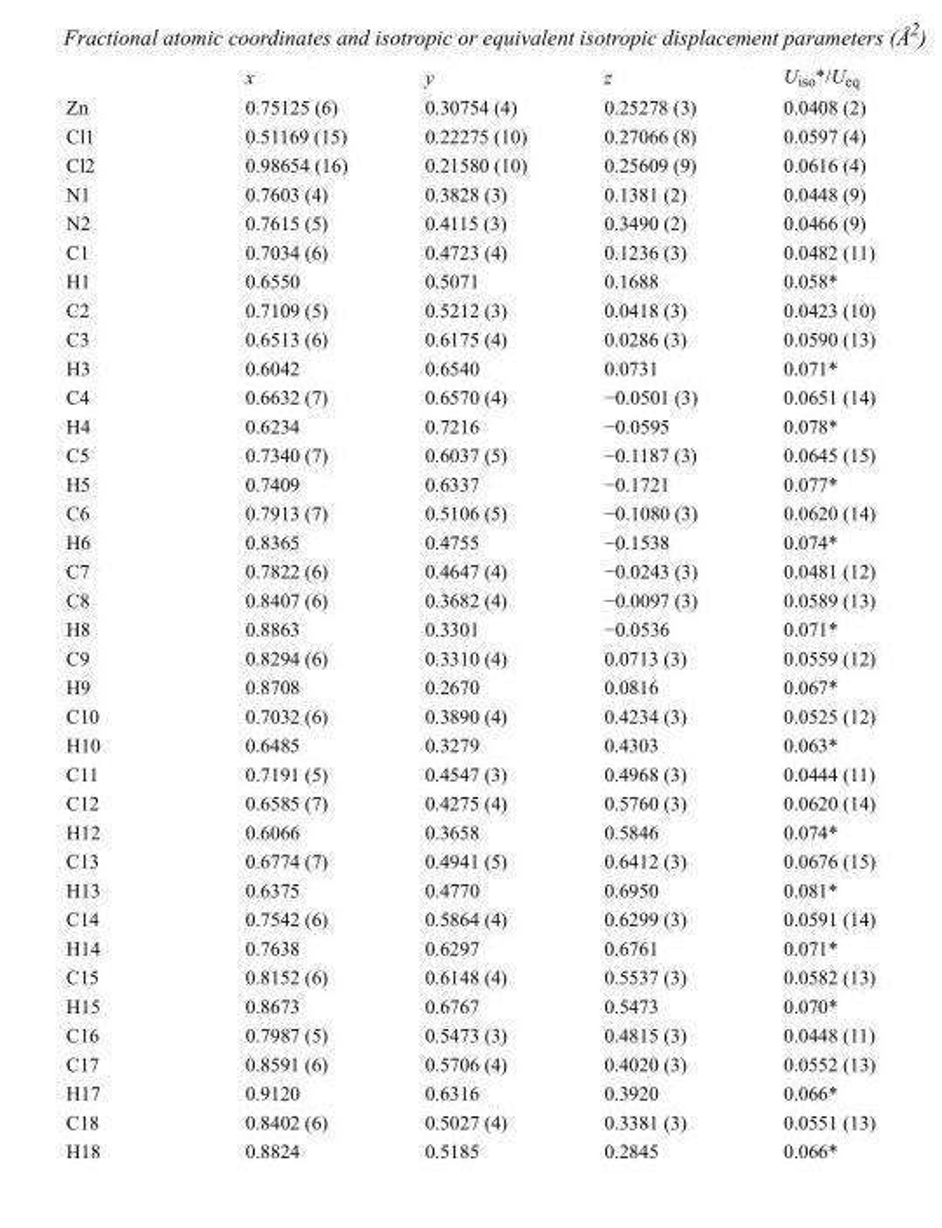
<table><thead><tr><td></td><td>x</td><td>y</td><td>z</td><td>U<sub>iso</sub>*/U<sub>eq</sub></td></tr></thead><tbody><tr><td>Zn</td><td>0.75125 (6)</td><td>0.30754 (4)</td><td>0.25278 (3)</td><td>0.0408 (2)</td></tr><tr><td>Cl1</td><td>0.51169 (15)</td><td>0.22275 (10)</td><td>0.27066 (8)</td><td>0.0597 (4)</td></tr><tr><td>Cl2</td><td>0.98654 (16)</td><td>0.21580 (10)</td><td>0.25609 (9)</td><td>0.0616 (4)</td></tr><tr><td>N1</td><td>0.7603 (4)</td><td>0.3828 (3)</td><td>0.1381 (2)</td><td>0.0448 (9)</td></tr><tr><td>N2</td><td>0.7615 (5)</td><td>0.4115 (3)</td><td>0.3490 (2)</td><td>0.0466 (9)</td></tr><tr><td>C1</td><td>0.7034 (6)</td><td>0.4723 (4)</td><td>0.1236 (3)</td><td>0.0482 (11)</td></tr><tr><td>H1</td><td>0.6550</td><td>0.5071</td><td>0.1688</td><td>0.058*</td></tr><tr><td>C2</td><td>0.7109 (5)</td><td>0.5212 (3)</td><td>0.0418 (3)</td><td>0.0423 (10)</td></tr><tr><td>C3</td><td>0.6513 (6)</td><td>0.6175 (4)</td><td>0.0286 (3)</td><td>0.0590 (13)</td></tr><tr><td>H3</td><td>0.6042</td><td>0.6540</td><td>0.0731</td><td>0.071*</td></tr><tr><td>C4</td><td>0.6632 (7)</td><td>0.6570 (4)</td><td>−0.0501 (3)</td><td>0.0651 (14)</td></tr><tr><td>H4</td><td>0.6234</td><td>0.7216</td><td>−0.0595</td><td>0.078*</td></tr><tr><td>C5</td><td>0.7340 (7)</td><td>0.6037 (5)</td><td>−0.1187 (3)</td><td>0.0645 (15)</td></tr><tr><td>H5</td><td>0.7409</td><td>0.6337</td><td>−0.1721</td><td>0.077*</td></tr><tr><td>C6</td><td>0.7913 (7)</td><td>0.5106 (5)</td><td>−0.1080 (3)</td><td>0.0620 (14)</td></tr><tr><td>H6</td><td>0.8365</td><td>0.4755</td><td>−0.1538</td><td>0.074*</td></tr><tr><td>C7</td><td>0.7822 (6)</td><td>0.4647 (4)</td><td>−0.0243 (3)</td><td>0.0481 (12)</td></tr><tr><td>C8</td><td>0.8407 (6)</td><td>0.3682 (4)</td><td>−0.0097 (3)</td><td>0.0589 (13)</td></tr><tr><td>H8</td><td>0.8863</td><td>0.3301</td><td>−0.0536</td><td>0.071*</td></tr><tr><td>C9</td><td>0.8294 (6)</td><td>0.3310 (4)</td><td>0.0713 (3)</td><td>0.0559 (12)</td></tr><tr><td>H9</td><td>0.8708</td><td>0.2670</td><td>0.0816</td><td>0.067*</td></tr><tr><td>C10</td><td>0.7032 (6)</td><td>0.3890 (4)</td><td>0.4234 (3)</td><td>0.0525 (12)</td></tr><tr><td>H10</td><td>0.6485</td><td>0.3279</td><td>0.4303</td><td>0.063*</td></tr><tr><td>C11</td><td>0.7191 (5)</td><td>0.4547 (3)</td><td>0.4968 (3)</td><td>0.0444 (11)</td></tr><tr><td>C12</td><td>0.6585 (7)</td><td>0.4275 (4)</td><td>0.5760 (3)</td><td>0.0620 (14)</td></tr><tr><td>H12</td><td>0.6066</td><td>0.3658</td><td>0.5846</td><td>0.074*</td></tr><tr><td>C13</td><td>0.6774 (7)</td><td>0.4941 (5)</td><td>0.6412 (3)</td><td>0.0676 (15)</td></tr><tr><td>H13</td><td>0.6375</td><td>0.4770</td><td>0.6950</td><td>0.081*</td></tr><tr><td>C14</td><td>0.7542 (6)</td><td>0.5864 (4)</td><td>0.6299 (3)</td><td>0.0591 (14)</td></tr><tr><td>H14</td><td>0.7638</td><td>0.6297</td><td>0.6761</td><td>0.071*</td></tr><tr><td>C15</td><td>0.8152 (6)</td><td>0.6148 (4)</td><td>0.5537 (3)</td><td>0.0582 (13)</td></tr><tr><td>H15</td><td>0.8673</td><td>0.6767</td><td>0.5473</td><td>0.070*</td></tr><tr><td>C16</td><td>0.7987 (5)</td><td>0.5473 (3)</td><td>0.4815 (3)</td><td>0.0448 (11)</td></tr><tr><td>C17</td><td>0.8591 (6)</td><td>0.5706 (4)</td><td>0.4020 (3)</td><td>0.0552 (13)</td></tr><tr><td>H17</td><td>0.9120</td><td>0.6316</td><td>0.3920</td><td>0.066*</td></tr><tr><td>C18</td><td>0.8402 (6)</td><td>0.5027 (4)</td><td>0.3381 (3)</td><td>0.0551 (13)</td></tr><tr><td>H18</td><td>0.8824</td><td>0.5185</td><td>0.2845</td><td>0.066*</td></tr></tbody></table>